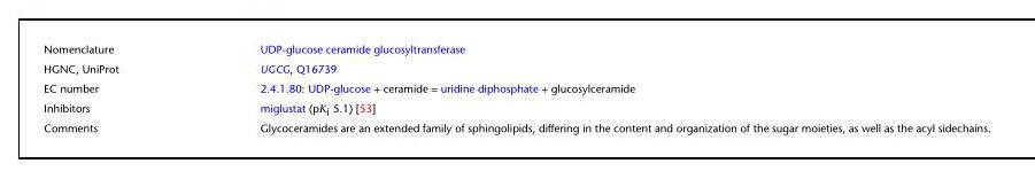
<table><tbody><tr><td>Nomenclature</td><td>UDP-glucose ceramide glucosyltransferase</td></tr><tr><td>HGNC, UniProt</td><td>UGCG, Q16739</td></tr><tr><td>EC number</td><td>2.4.1.80: UDP-glucose + ceramide = uridine diphosphate + glucosylceramide</td></tr><tr><td>Inhibitors</td><td>miglustat (pK<sub>i</sub> 5.1) [53]</td></tr><tr><td>Comments</td><td>Glycoceramides are an extended family of sphingolipids, differing in the content and organization of the sugar moieties, as well as the acyl sidechains.</td></tr></tbody></table>